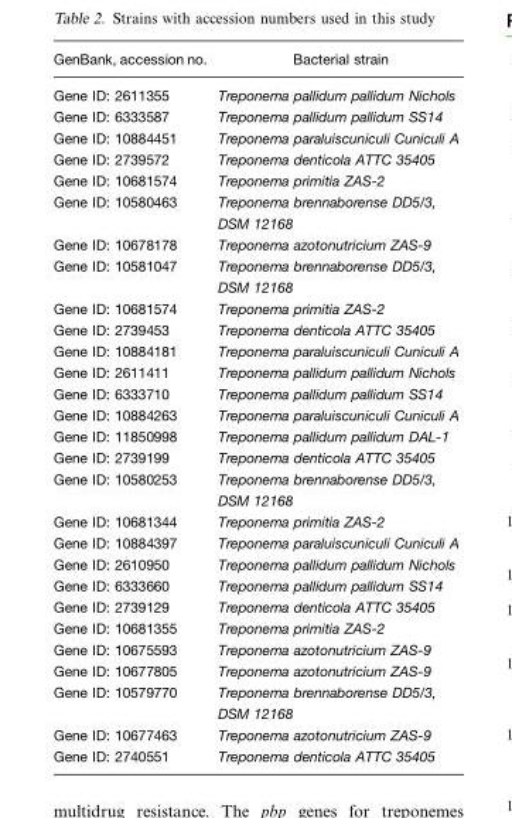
<table><thead><tr><td>GenBank, accession no.</td><td>Bacterial strain</td></tr></thead><tbody><tr><td>Gene ID: 2611355</td><td>Treponema pallidum pallidum Nichols</td></tr><tr><td>Gene ID: 6333587</td><td>Treponema pallidum pallidum SS14</td></tr><tr><td>Gene ID: 10884451</td><td>Treponema paraluiscuniculi Cuniculi A</td></tr><tr><td>Gene ID: 2739572</td><td>Treponema denticola ATTC 35405</td></tr><tr><td>Gene ID: 10681574</td><td>Treponema primitia ZAS-2</td></tr><tr><td>Gene ID: 10580463</td><td>Treponema brennaborense DD5/3, DSM 12168</td></tr><tr><td>Gene ID: 10678178</td><td>Treponema azotonutricium ZAS-9</td></tr><tr><td>Gene ID: 10581047</td><td>Treponema brennaborense DD5/3, DSM 12168</td></tr><tr><td>Gene ID: 10681574</td><td>Treponema primitia ZAS-2</td></tr><tr><td>Gene ID: 2739453</td><td>Treponema denticola ATTC 35405</td></tr><tr><td>Gene ID: 10884181</td><td>Treponema paraluiscuniculi Cuniculi A</td></tr><tr><td>Gene ID: 2611411</td><td>Treponema pallidum pallidum Nichols</td></tr><tr><td>Gene ID: 6333710</td><td>Treponema pallidum pallidum SS14</td></tr><tr><td>Gene ID: 10884263</td><td>Treponema paraluiscuniculi Cuniculi A</td></tr><tr><td>Gene ID: 11850998</td><td>Treponema pallidum pallidum DAL-1</td></tr><tr><td>Gene ID: 2739199</td><td>Treponema denticola ATTC 35405</td></tr><tr><td>Gene ID: 10580253</td><td>Treponema brennaborense DD5/3, DSM 12168</td></tr><tr><td>Gene ID: 10681344</td><td>Treponema primitia ZAS-2</td></tr><tr><td>Gene ID: 10884397</td><td>Treponema paraluiscuniculi Cuniculi A</td></tr><tr><td>Gene ID: 2610950</td><td>Treponema pallidum pallidum Nichols</td></tr><tr><td>Gene ID: 6333660</td><td>Treponema pallidum pallidum SS14</td></tr><tr><td>Gene ID: 2739129</td><td>Treponema denticola ATTC 35405</td></tr><tr><td>Gene ID: 10681355</td><td>Treponema primitia ZAS-2</td></tr><tr><td>Gene ID: 10675593</td><td>Treponema azotonutricium ZAS-9</td></tr><tr><td>Gene ID: 10677805</td><td>Treponema azotonutricium ZAS-9</td></tr><tr><td>Gene ID: 10579770</td><td>Treponema brennaborense DD5/3, DSM 12168</td></tr><tr><td>Gene ID: 10677463</td><td>Treponema azotonutricium ZAS-9</td></tr><tr><td>Gene ID: 2740551</td><td>Treponema denticola ATTC 35405</td></tr></tbody></table>